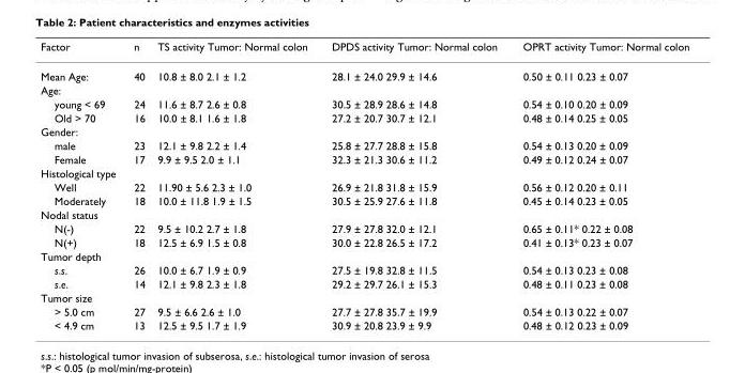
<table><thead><tr><td>Factor</td><td>n</td><td>TS activity Tumor: Normal colon</td><td>DPDS activity Tumor: Normal colon</td><td>OPRT activity Tumor: Normal colon</td></tr></thead><tbody><tr><td>Mean Age:</td><td>40</td><td>10.8 ± 8.0 2.1 ± 1.2</td><td>28.1 ± 24.0 29.9 ± 14.6</td><td>0.50 ± 0.11 0.23 ± 0.07</td></tr><tr><td colspan="5">Age:</td></tr><tr><td>young &lt; 69</td><td>24</td><td>11.6 ± 8.7 2.6 ± 0.8</td><td>30.5 ± 28.9 28.6 ± 14.8</td><td>0.54 ± 0.10 0.20 ± 0.09</td></tr><tr><td>Old &gt; 70</td><td>16</td><td>10.0 ± 8.1 1.6 ± 1.8</td><td>27.2 ± 20.7 30.7 ± 12.1</td><td>0.48 ± 0.14 0.25 ± 0.05</td></tr><tr><td colspan="5">Gender:</td></tr><tr><td>male</td><td>23</td><td>12.1 ± 9.8 2.2 ± 1.4</td><td>25.8 ± 27.7 28.8 ± 15.8</td><td>0.54 ± 0.13 0.20 ± 0.09</td></tr><tr><td>Female</td><td>17</td><td>9.9 ± 9.5 2.0 ± 1.1</td><td>32.3 ± 21.3 30.6 ± 11.2</td><td>0.49 ± 0.12 0.24 ± 0.07</td></tr><tr><td colspan="5">Histological type</td></tr><tr><td>Well</td><td>22</td><td>11.90 ± 5.6 2.3 ± 1.0</td><td>26.9 ± 21.8 31.8 ± 15.9</td><td>0.56 ± 0.12 0.20 ± 0.11</td></tr><tr><td>Moderately</td><td>18</td><td>10.0 ± 11.8 1.9 ± 1.5</td><td>30.5 ± 25.9 27.6 ± 11.8</td><td>0.45 ± 0.14 0.23 ± 0.05</td></tr><tr><td colspan="5">Nodal status</td></tr><tr><td>N(-)</td><td>22</td><td>9.5 ± 10.2 2.7 ± 1.8</td><td>27.9 ± 27.8 32.0 ± 12.1</td><td>0.65 ± 0.11* 0.22 ± 0.08</td></tr><tr><td>N(+)</td><td>18</td><td>12.5 ± 6.9 1.5 ± 0.8</td><td>30.0 ± 22.8 26.5 ± 17.2</td><td>0.41 ± 0.13* 0.23 ± 0.07</td></tr><tr><td colspan="5">Tumor depth</td></tr><tr><td>s.s.</td><td>26</td><td>10.0 ± 6.7 1.9 ± 0.9</td><td>27.5 ± 19.8 32.8 ± 11.5</td><td>0.54 ± 0.13 0.23 ± 0.08</td></tr><tr><td>s.e.</td><td>14</td><td>12.1 ± 9.8 2.3 ± 1.8</td><td>29.2 ± 29.7 26.1 ± 15.3</td><td>0.48 ± 0.11 0.23 ± 0.08</td></tr><tr><td colspan="5">Tumor size</td></tr><tr><td>&gt; 5.0 cm</td><td>27</td><td>9.5 ± 6.6 2.6 ± 1.0</td><td>27.7 ± 27.8 35.7 ± 19.9</td><td>0.54 ± 0.13 0.22 ± 0.07</td></tr><tr><td>&lt; 4.9 cm</td><td>13</td><td>12.5 ± 9.5 1.7 ± 1.9</td><td>30.9 ± 20.8 23.9 ± 9.9</td><td>0.48 ± 0.12 0.23 ± 0.09</td></tr></tbody></table>